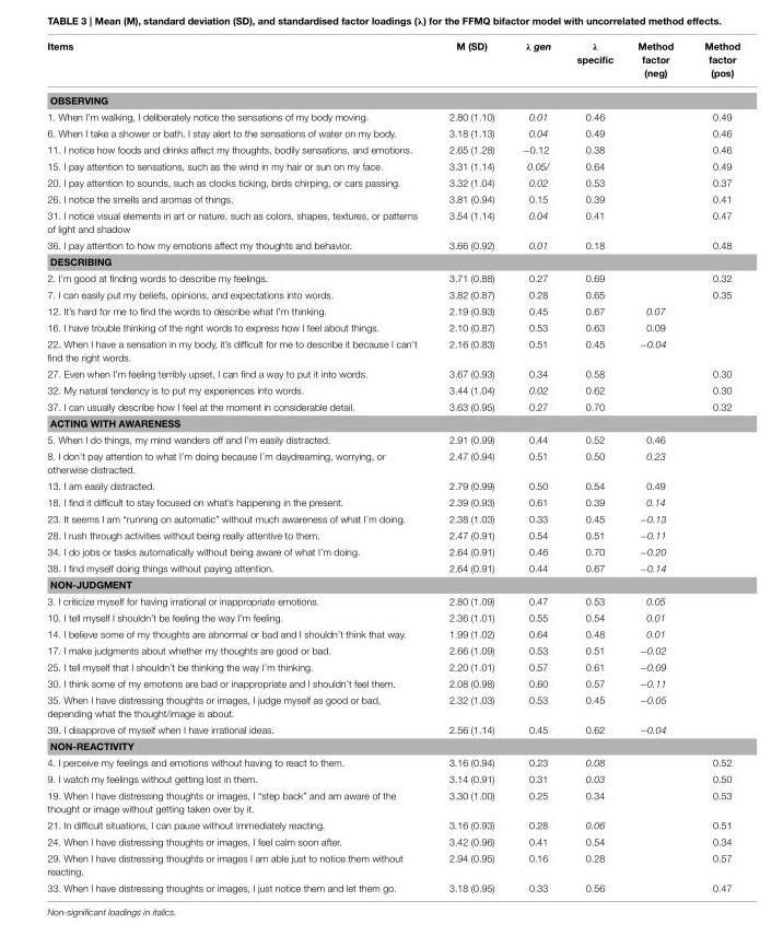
<table><thead><tr><td>Items</td><td>M (SD)</td><td>λ gen</td><td>λ specific</td><td>Method factor (neg)</td><td>Method factor (pos)</td></tr></thead><tbody><tr><td colspan="6">OBSERVING</td></tr><tr><td>1. When I’m walking, I deliberately notice the sensations of my body moving.</td><td>2.80 (1.10)</td><td>0.01</td><td>0.46</td><td></td><td>0.49</td></tr><tr><td>6. When I take a shower or bath, I stay alert to the sensations of water on my body.</td><td>3.18 (1.13)</td><td>0.04</td><td>0.49</td><td></td><td>0.46</td></tr><tr><td>11. I notice how foods and drinks affect my thoughts, bodily sensations, and emotions.</td><td>2.65 (1.28)</td><td>−0.12</td><td>0.38</td><td></td><td>0.46</td></tr><tr><td>15. I pay attention to sensations, such as the wind in my hair or sun on my face.</td><td>3.31 (1.14)</td><td>0.05/</td><td>0.64</td><td></td><td>0.49</td></tr><tr><td>20. I pay attention to sounds, such as clocks ticking, birds chirping, or cars passing.</td><td>3.32 (1.04)</td><td>0.02</td><td>0.53</td><td></td><td>0.37</td></tr><tr><td>26. I notice the smells and aromas of things.</td><td>3.81 (0.94)</td><td>0.15</td><td>0.39</td><td></td><td>0.41</td></tr><tr><td>31. I notice visual elements in art or nature, such as colors, shapes, textures, or patterns of light and shadow</td><td>3.54 (1.14)</td><td>0.04</td><td>0.41</td><td></td><td>0.47</td></tr><tr><td>36. I pay attention to how my emotions affect my thoughts and behavior.</td><td>3.66 (0.92)</td><td>0.01</td><td>0.18</td><td></td><td>0.48</td></tr><tr><td colspan="6">DESCRIBING</td></tr><tr><td>2. I’m good at finding words to describe my feelings.</td><td>3.71 (0.88)</td><td>0.27</td><td>0.69</td><td></td><td>0.32</td></tr><tr><td>7. I can easily put my beliefs, opinions, and expectations into words.</td><td>3.82 (0.87)</td><td>0.28</td><td>0.65</td><td></td><td>0.35</td></tr><tr><td>12. It’s hard for me to find the words to describe what I’m thinking.</td><td>2.19 (0.93)</td><td>0.45</td><td>0.67</td><td>0.07</td><td></td></tr><tr><td>16. I have trouble thinking of the right words to express how I feel about things.</td><td>2.10 (0.87)</td><td>0.53</td><td>0.63</td><td>0.09</td><td></td></tr><tr><td>22. When I have a sensation in my body, it’s difficult for me to describe it because I can’t find the right words.</td><td>2.16 (0.83)</td><td>0.51</td><td>0.45</td><td>−0.04</td><td></td></tr><tr><td>27. Even when I’m feeling terribly upset, I can find a way to put it into words.</td><td>3.67 (0.93)</td><td>0.34</td><td>0.58</td><td></td><td>0.30</td></tr><tr><td>32. My natural tendency is to put my experiences into words.</td><td>3.44 (1.04)</td><td>0.02</td><td>0.62</td><td></td><td>0.30</td></tr><tr><td>37. I can usually describe how I feel at the moment in considerable detail.</td><td>3.63 (0.95)</td><td>0.27</td><td>0.70</td><td></td><td>0.32</td></tr><tr><td colspan="6">ACTING WITH AWARENESS</td></tr><tr><td>5. When I do things, my mind wanders off and I’m easily distracted.</td><td>2.91 (0.99)</td><td>0.44</td><td>0.52</td><td>0.46</td><td></td></tr><tr><td>8. I don’t pay attention to what I’m doing because I’m daydreaming, worrying, or otherwise distracted.</td><td>2.47 (0.94)</td><td>0.51</td><td>0.50</td><td>0.23</td><td></td></tr><tr><td>13. I am easily distracted.</td><td>2.79 (0.99)</td><td>0.50</td><td>0.54</td><td>0.49</td><td></td></tr><tr><td>18. I find it difficult to stay focused on what’s happening in the present.</td><td>2.39 (0.93)</td><td>0.61</td><td>0.39</td><td>0.14</td><td></td></tr><tr><td>23. It seems I am “running on automatic” without much awareness of what I’m doing.</td><td>2.38 (1.03)</td><td>0.33</td><td>0.45</td><td>−0.13</td><td></td></tr><tr><td>28. I rush through activities without being really attentive to them.</td><td>2.47 (0.91)</td><td>0.54</td><td>0.51</td><td>−0.11</td><td></td></tr><tr><td>34. I do jobs or tasks automatically without being aware of what I’m doing.</td><td>2.64 (0.91)</td><td>0.46</td><td>0.70</td><td>−0.20</td><td></td></tr><tr><td>38. I find myself doing things without paying attention.</td><td>2.64 (0.91)</td><td>0.44</td><td>0.67</td><td>−0.14</td><td></td></tr><tr><td colspan="6">NON-JUDGMENT</td></tr><tr><td>3. I criticize myself for having irrational or inappropriate emotions.</td><td>2.80 (1.09)</td><td>0.47</td><td>0.53</td><td>0.05</td><td></td></tr><tr><td>10. I tell myself I shouldn’t be feeling the way I’m feeling.</td><td>2.36 (1.01)</td><td>0.55</td><td>0.54</td><td>0.01</td><td></td></tr><tr><td>14. I believe some of my thoughts are abnormal or bad and I shouldn’t think that way.</td><td>1.99 (1.02)</td><td>0.64</td><td>0.48</td><td>0.01</td><td></td></tr><tr><td>17. I make judgments about whether my thoughts are good or bad.</td><td>2.66 (1.09)</td><td>0.53</td><td>0.51</td><td>−0.02</td><td></td></tr><tr><td>25. I tell myself that I shouldn’t be thinking the way I’m thinking.</td><td>2.20 (1.01)</td><td>0.57</td><td>0.61</td><td>−0.09</td><td></td></tr><tr><td>30. I think some of my emotions are bad or inappropriate and I shouldn’t feel them.</td><td>2.08 (0.98)</td><td>0.60</td><td>0.57</td><td>−0.11</td><td></td></tr><tr><td>35. When I have distressing thoughts or images, I judge myself as good or bad, depending what the thought/image is about.</td><td>2.32 (1.03)</td><td>0.53</td><td>0.45</td><td>−0.05</td><td></td></tr><tr><td>39. I disapprove of myself when I have irrational ideas.</td><td>2.56 (1.14)</td><td>0.45</td><td>0.62</td><td>−0.04</td><td></td></tr><tr><td colspan="6">NON-REACTIVITY</td></tr><tr><td>4. I perceive my feelings and emotions without having to react to them.</td><td>3.16 (0.94)</td><td>0.23</td><td>0.08</td><td></td><td>0.52</td></tr><tr><td>9. I watch my feelings without getting lost in them.</td><td>3.14 (0.91)</td><td>0.31</td><td>0.03</td><td></td><td>0.50</td></tr><tr><td>19. When I have distressing thoughts or images, I “step back” and am aware of the thought or image without getting taken over by it.</td><td>3.30 (1.00)</td><td>0.25</td><td>0.34</td><td></td><td>0.53</td></tr><tr><td>21. In difficult situations, I can pause without immediately reacting.</td><td>3.16 (0.93)</td><td>0.28</td><td>0.06</td><td></td><td>0.51</td></tr><tr><td>24. When I have distressing thoughts or images, I feel calm soon after.</td><td>3.42 (0.96)</td><td>0.41</td><td>0.54</td><td></td><td>0.34</td></tr><tr><td>29. When I have distressing thoughts or images I am able just to notice them without reacting.</td><td>2.94 (0.95)</td><td>0.16</td><td>0.28</td><td></td><td>0.57</td></tr><tr><td>33. When I have distressing thoughts or images, I just notice them and let them go.</td><td>3.18 (0.95)</td><td>0.33</td><td>0.56</td><td></td><td>0.47</td></tr></tbody></table>